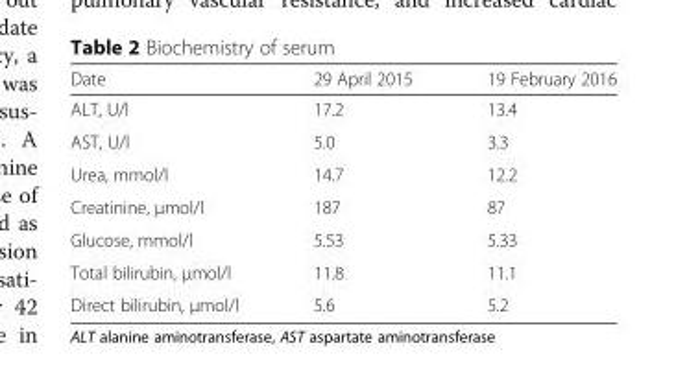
<table><thead><tr><td>Date</td><td>29 April 2015</td><td>19 February 2016</td></tr></thead><tbody><tr><td>ALT, U/l</td><td>17.2</td><td>13.4</td></tr><tr><td>AST, U/l</td><td>5.0</td><td>3.3</td></tr><tr><td>Urea, mmol/l</td><td>14.7</td><td>12.2</td></tr><tr><td>Creatinine, μmol/l</td><td>187</td><td>87</td></tr><tr><td>Glucose, mmol/l</td><td>5.53</td><td>5.33</td></tr><tr><td>Total bilirubin, μmol/l</td><td>11.8</td><td>11.1</td></tr><tr><td>Direct bilirubin, μmol/l</td><td>5.6</td><td>5.2</td></tr></tbody></table>